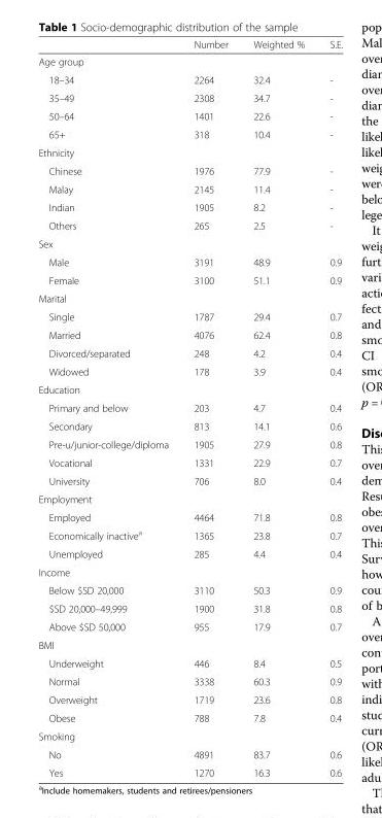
<table><thead><tr><td></td><td>Number</td><td>Weighted %</td><td>S.E.</td></tr></thead><tbody><tr><td colspan="4">Age group</td></tr><tr><td>18–34</td><td>2264</td><td>32.4</td><td>-</td></tr><tr><td>35–49</td><td>2308</td><td>34.7</td><td>-</td></tr><tr><td>50–64</td><td>1401</td><td>22.6</td><td>-</td></tr><tr><td>65+</td><td>318</td><td>10.4</td><td>-</td></tr><tr><td colspan="4">Ethnicity</td></tr><tr><td>Chinese</td><td>1976</td><td>77.9</td><td>-</td></tr><tr><td>Malay</td><td>2145</td><td>11.4</td><td>-</td></tr><tr><td>Indian</td><td>1905</td><td>8.2</td><td>-</td></tr><tr><td>Others</td><td>265</td><td>2.5</td><td>-</td></tr><tr><td colspan="4">Sex</td></tr><tr><td>Male</td><td>3191</td><td>48.9</td><td>0.9</td></tr><tr><td>Female</td><td>3100</td><td>51.1</td><td>0.9</td></tr><tr><td colspan="4">Marital</td></tr><tr><td>Single</td><td>1787</td><td>29.4</td><td>0.7</td></tr><tr><td>Married</td><td>4076</td><td>62.4</td><td>0.8</td></tr><tr><td>Divorced/separated</td><td>248</td><td>4.2</td><td>0.4</td></tr><tr><td>Widowed</td><td>178</td><td>3.9</td><td>0.4</td></tr><tr><td colspan="4">Education</td></tr><tr><td>Primary and below</td><td>203</td><td>4.7</td><td>0.4</td></tr><tr><td>Secondary</td><td>813</td><td>14.1</td><td>0.6</td></tr><tr><td>Pre-u/junior-college/diploma</td><td>1905</td><td>27.9</td><td>0.8</td></tr><tr><td>Vocational</td><td>1331</td><td>22.9</td><td>0.7</td></tr><tr><td>University</td><td>706</td><td>8.0</td><td>0.4</td></tr><tr><td colspan="4">Employment</td></tr><tr><td>Employed</td><td>4464</td><td>71.8</td><td>0.8</td></tr><tr><td>Economically inactive<sup>a</sup></td><td>1365</td><td>23.8</td><td>0.7</td></tr><tr><td>Unemployed</td><td>285</td><td>4.4</td><td>0.4</td></tr><tr><td colspan="4">Income</td></tr><tr><td>Below $SD 20,000</td><td>3110</td><td>50.3</td><td>0.9</td></tr><tr><td>$SD 20,000–49,999</td><td>1900</td><td>31.8</td><td>0.8</td></tr><tr><td>Above $SD 50,000</td><td>955</td><td>17.9</td><td>0.7</td></tr><tr><td colspan="4">BMI</td></tr><tr><td>Underweight</td><td>446</td><td>8.4</td><td>0.5</td></tr><tr><td>Normal</td><td>3338</td><td>60.3</td><td>0.9</td></tr><tr><td>Overweight</td><td>1719</td><td>23.6</td><td>0.8</td></tr><tr><td>Obese</td><td>788</td><td>7.8</td><td>0.4</td></tr><tr><td colspan="4">Smoking</td></tr><tr><td>No</td><td>4891</td><td>83.7</td><td>0.6</td></tr><tr><td>Yes</td><td>1270</td><td>16.3</td><td>0.6</td></tr></tbody></table>